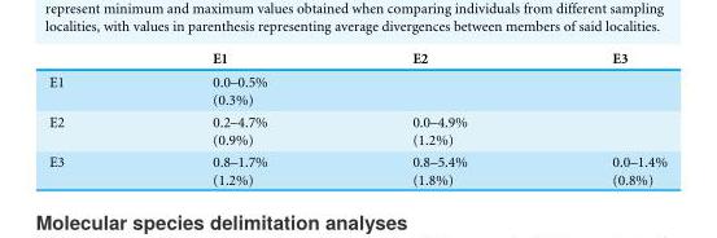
<table><thead><tr><td></td><td>E1</td><td>E2</td><td>E3</td></tr></thead><tbody><tr><td>E1</td><td>0.0–0.5% (0.3%)</td><td></td><td></td></tr><tr><td>E2</td><td>0.2–4.7% (0.9%)</td><td>0.0–4.9% (1.2%)</td><td></td></tr><tr><td>E3</td><td>0.8–1.7% (1.2%)</td><td>0.8–5.4% (1.8%)</td><td>0.0–1.4% (0.8%)</td></tr></tbody></table>